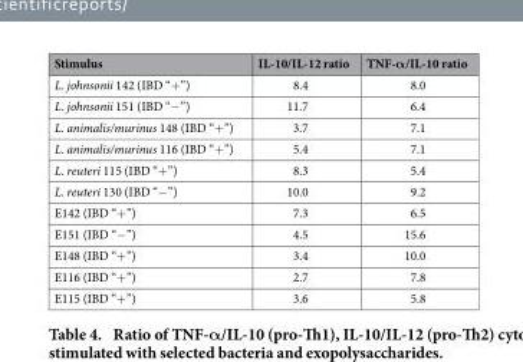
<table><thead><tr><td>Stimulus</td><td>IL-10/IL-12 ratio</td><td>TNF-α/IL-10 ratio</td></tr></thead><tbody><tr><td>L. johnsonii 142 (IBD “+ ”)</td><td>8.4</td><td>8.0</td></tr><tr><td>L. johnsonii 151 (IBD “− ”)</td><td>11.7</td><td>6.4</td></tr><tr><td>L. animalis/murinus 148 (IBD “+ ”)</td><td>3.7</td><td>7.1</td></tr><tr><td>L. animalis/murinus 116 (IBD “+ ”)</td><td>5.4</td><td>7.1</td></tr><tr><td>L. reuteri 115 (IBD “+ ”)</td><td>8.3</td><td>5.4</td></tr><tr><td>L. reuteri 130 (IBD “− ”)</td><td>10.0</td><td>9.2</td></tr><tr><td>E142 (IBD “+ ”)</td><td>7.3</td><td>6.5</td></tr><tr><td>E151 (IBD “− ”)</td><td>4.5</td><td>15.6</td></tr><tr><td>E148 (IBD “+ ”)</td><td>3.4</td><td>10.0</td></tr><tr><td>E116 (IBD “+ ”)</td><td>2.7</td><td>7.8</td></tr><tr><td>E115 (IBD “+ ”)</td><td>3.6</td><td>5.8</td></tr></tbody></table>